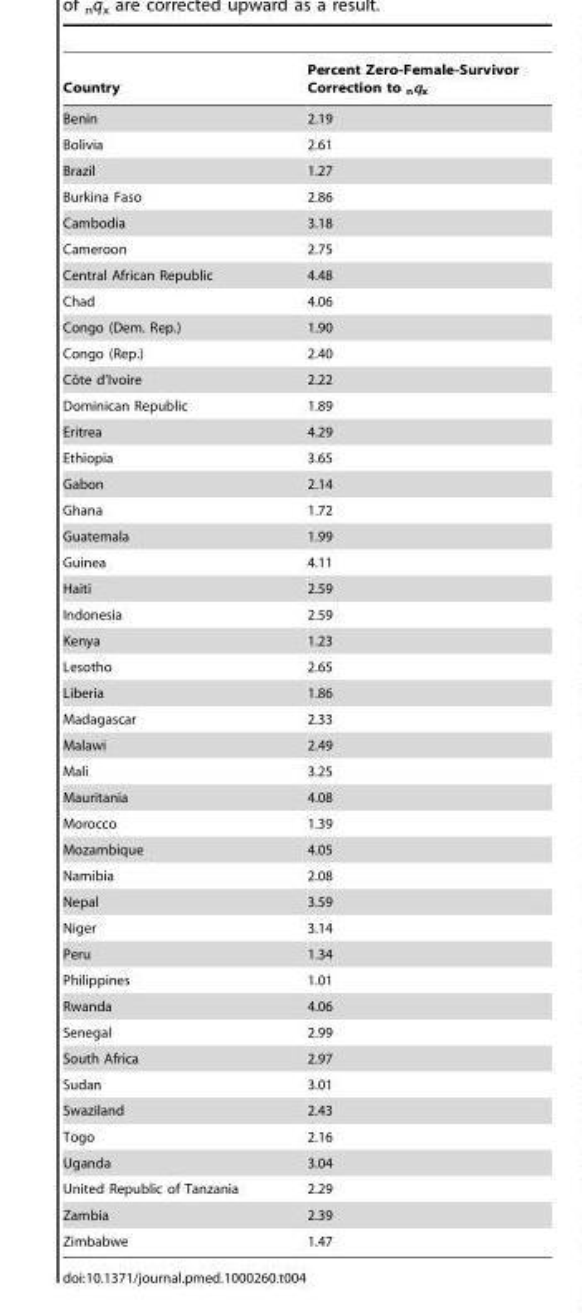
<table><thead><tr><td>Country</td><td>Percent Zero-Female-Survivor Correction to <sub>n</sub>q<sub>x</sub></td></tr></thead><tbody><tr><td>Benin</td><td>2.19</td></tr><tr><td>Bolivia</td><td>2.61</td></tr><tr><td>Brazil</td><td>1.27</td></tr><tr><td>Burkina Faso</td><td>2.86</td></tr><tr><td>Cambodia</td><td>3.18</td></tr><tr><td>Cameroon</td><td>2.75</td></tr><tr><td>Central African Republic</td><td>4.48</td></tr><tr><td>Chad</td><td>4.06</td></tr><tr><td>Congo (Dem. Rep.)</td><td>1.90</td></tr><tr><td>Congo (Rep.)</td><td>2.40</td></tr><tr><td>Coˆte d’Ivoire</td><td>2.22</td></tr><tr><td>Dominican Republic</td><td>1.89</td></tr><tr><td>Eritrea</td><td>4.29</td></tr><tr><td>Ethiopia</td><td>3.65</td></tr><tr><td>Gabon</td><td>2.14</td></tr><tr><td>Ghana</td><td>1.72</td></tr><tr><td>Guatemala</td><td>1.99</td></tr><tr><td>Guinea</td><td>4.11</td></tr><tr><td>Haiti</td><td>2.59</td></tr><tr><td>Indonesia</td><td>2.59</td></tr><tr><td>Kenya</td><td>1.23</td></tr><tr><td>Lesotho</td><td>2.65</td></tr><tr><td>Liberia</td><td>1.86</td></tr><tr><td>Madagascar</td><td>2.33</td></tr><tr><td>Malawi</td><td>2.49</td></tr><tr><td>Mali</td><td>3.25</td></tr><tr><td>Mauritania</td><td>4.08</td></tr><tr><td>Morocco</td><td>1.39</td></tr><tr><td>Mozambique</td><td>4.05</td></tr><tr><td>Namibia</td><td>2.08</td></tr><tr><td>Nepal</td><td>3.59</td></tr><tr><td>Niger</td><td>3.14</td></tr><tr><td>Peru</td><td>1.34</td></tr><tr><td>Philippines</td><td>1.01</td></tr><tr><td>Rwanda</td><td>4.06</td></tr><tr><td>Senegal</td><td>2.99</td></tr><tr><td>South Africa</td><td>2.97</td></tr><tr><td>Sudan</td><td>3.01</td></tr><tr><td>Swaziland</td><td>2.43</td></tr><tr><td>Togo</td><td>2.16</td></tr><tr><td>Uganda</td><td>3.04</td></tr><tr><td>United Republic of Tanzania</td><td>2.29</td></tr><tr><td>Zambia</td><td>2.39</td></tr><tr><td>Zimbabwe</td><td>1.47</td></tr></tbody></table>